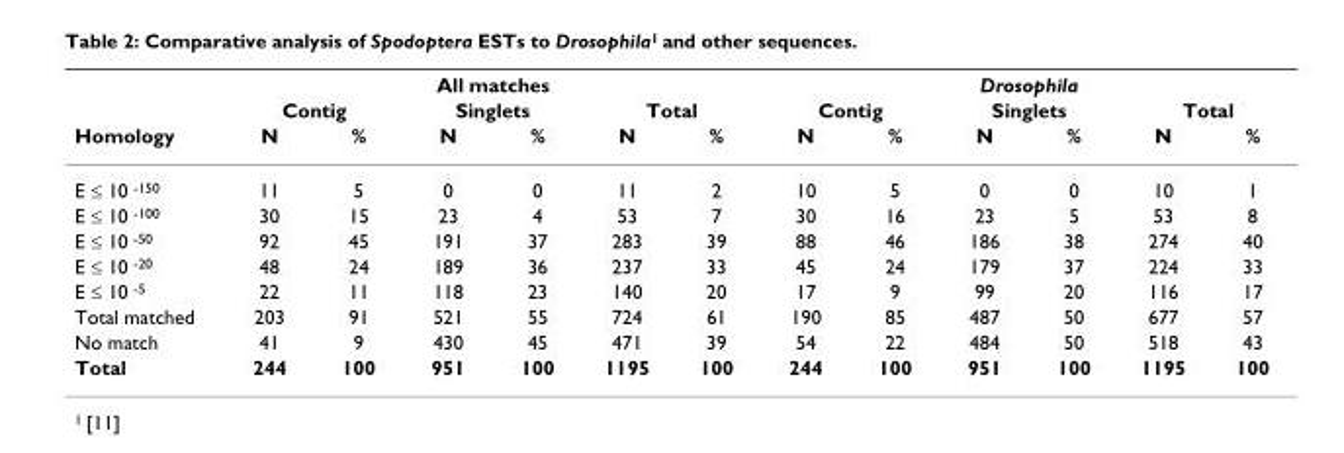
<table><thead><tr><td rowspan="3">Homology</td><td colspan="6">All matches</td><td colspan="6">Drosophila</td></tr><tr><td colspan="2">Contig</td><td colspan="2">Singlets</td><td colspan="2">Total</td><td colspan="2">Contig</td><td colspan="2">Singlets</td><td colspan="2">Total</td></tr><tr><td>N</td><td>%</td><td>N</td><td>%</td><td>N</td><td>%</td><td>N</td><td>%</td><td>N</td><td>%</td><td>N</td><td>%</td></tr></thead><tbody><tr><td>E ≤ 10 -150</td><td>11</td><td>5</td><td>0</td><td>0</td><td>11</td><td>2</td><td>10</td><td>5</td><td>0</td><td>0</td><td>10</td><td>1</td></tr><tr><td>E ≤ 10 -100</td><td>30</td><td>15</td><td>23</td><td>4</td><td>53</td><td>7</td><td>30</td><td>16</td><td>23</td><td>5</td><td>53</td><td>8</td></tr><tr><td>E ≤ 10 -50</td><td>92</td><td>45</td><td>191</td><td>37</td><td>283</td><td>39</td><td>88</td><td>46</td><td>186</td><td>38</td><td>274</td><td>40</td></tr><tr><td>E ≤ 10 -20</td><td>48</td><td>24</td><td>189</td><td>36</td><td>237</td><td>33</td><td>45</td><td>24</td><td>179</td><td>37</td><td>224</td><td>33</td></tr><tr><td>E ≤ 10 -5</td><td>22</td><td>11</td><td>118</td><td>23</td><td>140</td><td>20</td><td>17</td><td>9</td><td>99</td><td>20</td><td>116</td><td>17</td></tr><tr><td>Total matched</td><td>203</td><td>91</td><td>521</td><td>55</td><td>724</td><td>61</td><td>190</td><td>85</td><td>487</td><td>50</td><td>677</td><td>57</td></tr><tr><td>No match</td><td>41</td><td>9</td><td>430</td><td>45</td><td>471</td><td>39</td><td>54</td><td>22</td><td>484</td><td>50</td><td>518</td><td>43</td></tr><tr><td>Total</td><td>244</td><td>100</td><td>951</td><td>100</td><td>1195</td><td>100</td><td>244</td><td>100</td><td>951</td><td>100</td><td>1195</td><td>100</td></tr></tbody></table>